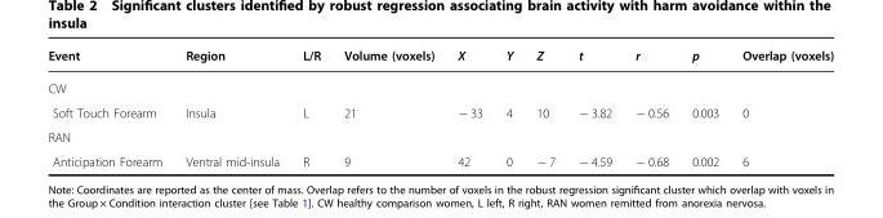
<table><thead><tr><td>Event</td><td>Region</td><td>L/R</td><td>Volume (voxels)</td><td>X</td><td>Y</td><td>Z</td><td>t</td><td>r</td><td>p</td><td>Overlap (voxels)</td></tr></thead><tbody><tr><td colspan="11">CW</td></tr><tr><td>Soft Touch Forearm</td><td>Insula</td><td>L</td><td>21</td><td>− 33</td><td>4</td><td>10</td><td>− 3.82</td><td>− 0.56</td><td>0.003</td><td>0</td></tr><tr><td colspan="11">RAN</td></tr><tr><td>Anticipation Forearm</td><td>Ventral mid-insula</td><td>R</td><td>9</td><td>42</td><td>0</td><td>− 7</td><td>− 4.59</td><td>− 0.68</td><td>0.002</td><td>6</td></tr></tbody></table>